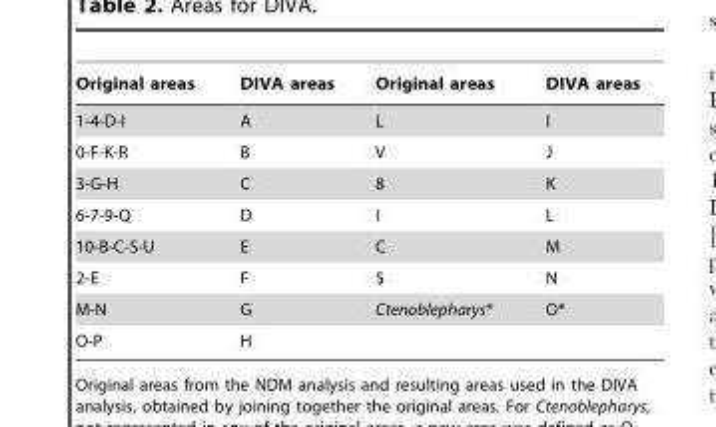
<table><thead><tr><td>Original areas</td><td>DIVA areas</td><td>Original areas</td><td>DIVA areas</td></tr></thead><tbody><tr><td>1-4-D-I</td><td>A</td><td>L</td><td>I</td></tr><tr><td>0-F-K-R</td><td>B</td><td>V</td><td>J</td></tr><tr><td>3-G-H</td><td>C</td><td>8</td><td>K</td></tr><tr><td>6-7-9-Q</td><td>D</td><td>I</td><td>L</td></tr><tr><td>10-B-C-S-U</td><td>E</td><td>C</td><td>M</td></tr><tr><td>2-E</td><td>F</td><td>5</td><td>N</td></tr><tr><td>M-N</td><td>G</td><td>Ctenoblepharys*</td><td>O*</td></tr><tr><td>O-P</td><td>H</td><td></td><td></td></tr></tbody></table>